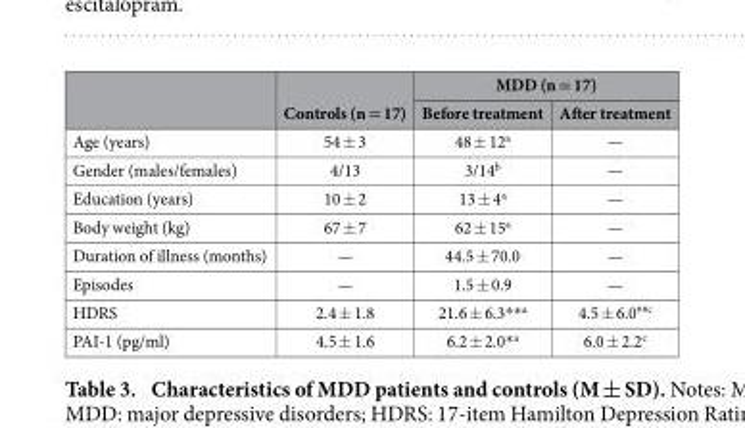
<table><thead><tr><td rowspan="2"></td><td rowspan="2">Controls (n = 17)</td><td colspan="2">MDD (n = 17)</td></tr><tr><td>Before treatment</td><td>After treatment</td></tr></thead><tbody><tr><td>Age (years)</td><td>54 ± 3</td><td>48 ± 12<sup>a</sup></td><td>—</td></tr><tr><td>Gender (males/females)</td><td>4/13</td><td>3/14<sup>b</sup></td><td>—</td></tr><tr><td>Education (years)</td><td>10 ± 2</td><td>13 ± 4<sup>a</sup></td><td>—</td></tr><tr><td>Body weight (kg)</td><td>67 ± 7</td><td>62 ± 15<sup>a</sup></td><td>—</td></tr><tr><td>Duration of illness (months)</td><td>—</td><td>44.5 ± 70.0</td><td>—</td></tr><tr><td>Episodes</td><td>—</td><td>1.5 ± 0.9</td><td>—</td></tr><tr><td>HDRS</td><td>2.4 ± 1.8</td><td>21.6 ± 6.3* * <sup>a</sup></td><td>4.5 ± 6.0<sup>##c</sup></td></tr><tr><td>PAI-1 (pg/ml)</td><td>4.5 ± 1.6</td><td>6.2 ± 2.0* <sup>a</sup></td><td>6.0 ± 2.2<sup>c</sup></td></tr></tbody></table>